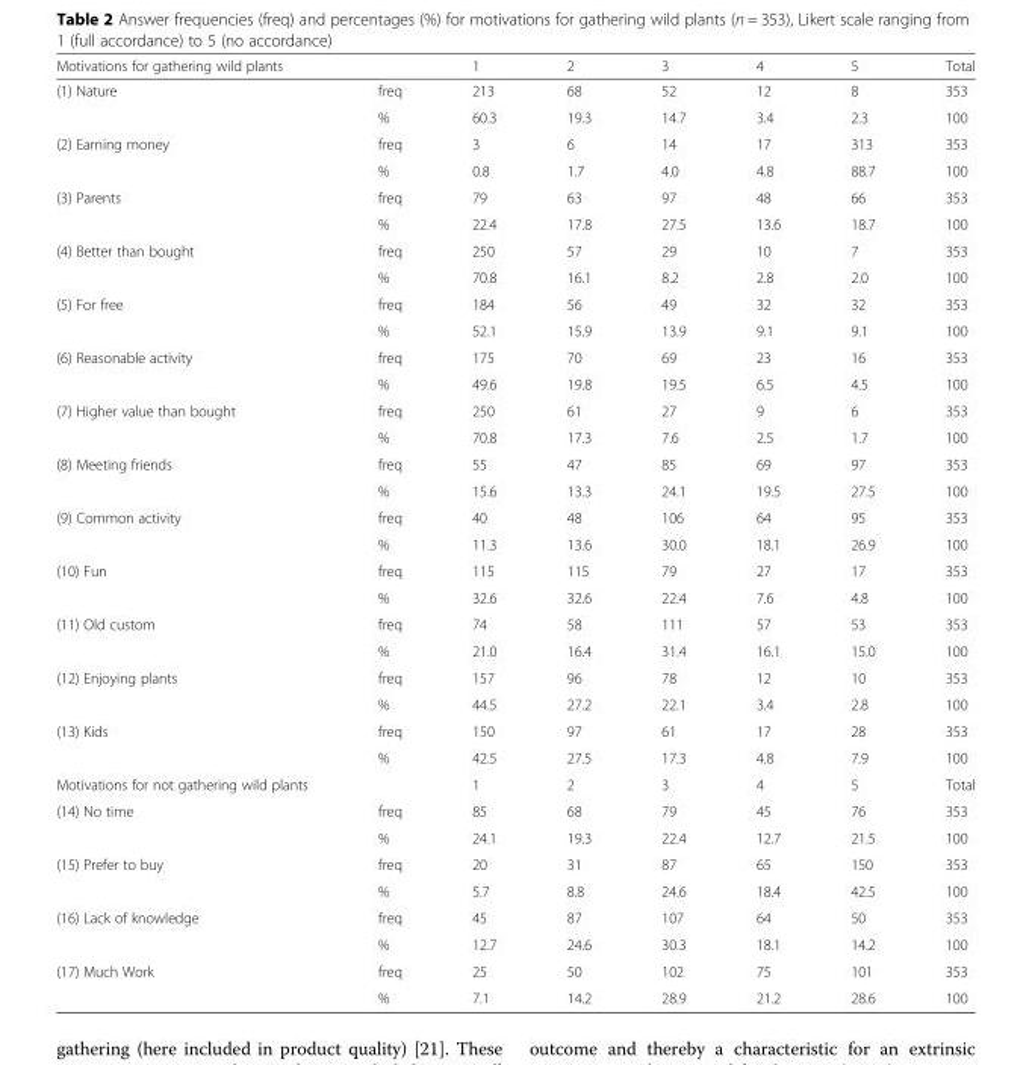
<table><thead><tr><td>Motivations for gathering wild plants</td><td></td><td>1</td><td>2</td><td>3</td><td>4</td><td>5</td><td>Total</td></tr></thead><tbody><tr><td rowspan="2">(1) Nature</td><td>freq</td><td>213</td><td>68</td><td>52</td><td>12</td><td>8</td><td>353</td></tr><tr><td>%</td><td>60.3</td><td>19.3</td><td>14.7</td><td>3.4</td><td>2.3</td><td>100</td></tr><tr><td rowspan="2">(2) Earning money</td><td>freq</td><td>3</td><td>6</td><td>14</td><td>17</td><td>313</td><td>353</td></tr><tr><td>%</td><td>0.8</td><td>1.7</td><td>4.0</td><td>4.8</td><td>88.7</td><td>100</td></tr><tr><td rowspan="2">(3) Parents</td><td>freq</td><td>79</td><td>63</td><td>97</td><td>48</td><td>66</td><td>353</td></tr><tr><td>%</td><td>22.4</td><td>17.8</td><td>27.5</td><td>13.6</td><td>18.7</td><td>100</td></tr><tr><td rowspan="2">(4) Better than bought</td><td>freq</td><td>250</td><td>57</td><td>29</td><td>10</td><td>7</td><td>353</td></tr><tr><td>%</td><td>70.8</td><td>16.1</td><td>8.2</td><td>2.8</td><td>2.0</td><td>100</td></tr><tr><td rowspan="2">(5) For free</td><td>freq</td><td>184</td><td>56</td><td>49</td><td>32</td><td>32</td><td>353</td></tr><tr><td>%</td><td>52.1</td><td>15.9</td><td>13.9</td><td>9.1</td><td>9.1</td><td>100</td></tr><tr><td rowspan="2">(6) Reasonable activity</td><td>freq</td><td>175</td><td>70</td><td>69</td><td>23</td><td>16</td><td>353</td></tr><tr><td>%</td><td>49.6</td><td>19.8</td><td>19.5</td><td>6.5</td><td>4.5</td><td>100</td></tr><tr><td rowspan="2">(7) Higher value than bought</td><td>freq</td><td>250</td><td>61</td><td>27</td><td>9</td><td>6</td><td>353</td></tr><tr><td>%</td><td>70.8</td><td>17.3</td><td>7.6</td><td>2.5</td><td>1.7</td><td>100</td></tr><tr><td rowspan="2">(8) Meeting friends</td><td>freq</td><td>55</td><td>47</td><td>85</td><td>69</td><td>97</td><td>353</td></tr><tr><td>%</td><td>15.6</td><td>13.3</td><td>24.1</td><td>19.5</td><td>27.5</td><td>100</td></tr><tr><td rowspan="2">(9) Common activity</td><td>freq</td><td>40</td><td>48</td><td>106</td><td>64</td><td>95</td><td>353</td></tr><tr><td>%</td><td>11.3</td><td>13.6</td><td>30.0</td><td>18.1</td><td>26.9</td><td>100</td></tr><tr><td rowspan="2">(10) Fun</td><td>freq</td><td>115</td><td>115</td><td>79</td><td>27</td><td>17</td><td>353</td></tr><tr><td>%</td><td>32.6</td><td>32.6</td><td>22.4</td><td>7.6</td><td>4.8</td><td>100</td></tr><tr><td rowspan="2">(11) Old custom</td><td>freq</td><td>74</td><td>58</td><td>111</td><td>57</td><td>53</td><td>353</td></tr><tr><td>%</td><td>21.0</td><td>16.4</td><td>31.4</td><td>16.1</td><td>15.0</td><td>100</td></tr><tr><td rowspan="2">(12) Enjoying plants</td><td>freq</td><td>157</td><td>96</td><td>78</td><td>12</td><td>10</td><td>353</td></tr><tr><td>%</td><td>44.5</td><td>27.2</td><td>22.1</td><td>3.4</td><td>2.8</td><td>100</td></tr><tr><td rowspan="2">(13) Kids</td><td>freq</td><td>150</td><td>97</td><td>61</td><td>17</td><td>28</td><td>353</td></tr><tr><td>%</td><td>42.5</td><td>27.5</td><td>17.3</td><td>4.8</td><td>7.9</td><td>100</td></tr><tr><td>Motivations for not gathering wild plants</td><td></td><td>1</td><td>2</td><td>3</td><td>4</td><td>5</td><td>Total</td></tr><tr><td rowspan="2">(14) No time</td><td>freq</td><td>85</td><td>68</td><td>79</td><td>45</td><td>76</td><td>353</td></tr><tr><td>%</td><td>24.1</td><td>19.3</td><td>22.4</td><td>12.7</td><td>21.5</td><td>100</td></tr><tr><td rowspan="2">(15) Prefer to buy</td><td>freq</td><td>20</td><td>31</td><td>87</td><td>65</td><td>150</td><td>353</td></tr><tr><td>%</td><td>5.7</td><td>8.8</td><td>24.6</td><td>18.4</td><td>42.5</td><td>100</td></tr><tr><td rowspan="2">(16) Lack of knowledge</td><td>freq</td><td>45</td><td>87</td><td>107</td><td>64</td><td>50</td><td>353</td></tr><tr><td>%</td><td>12.7</td><td>24.6</td><td>30.3</td><td>18.1</td><td>14.2</td><td>100</td></tr><tr><td rowspan="2">(17) Much Work</td><td>freq</td><td>25</td><td>50</td><td>102</td><td>75</td><td>101</td><td>353</td></tr><tr><td>%</td><td>7.1</td><td>14.2</td><td>28.9</td><td>21.2</td><td>28.6</td><td>100</td></tr></tbody></table>